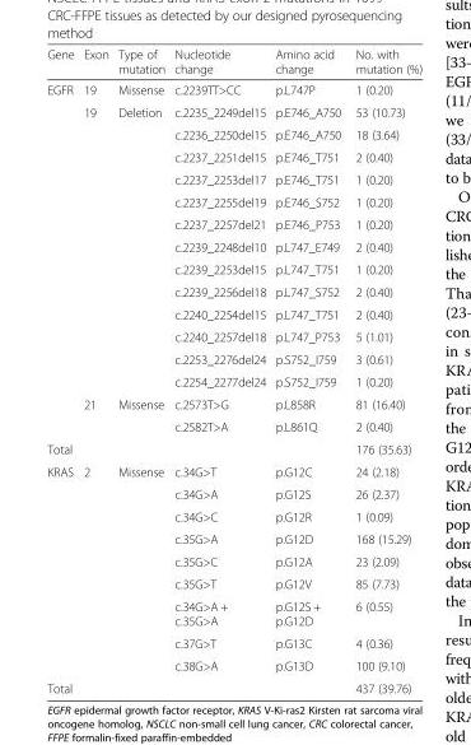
<table><thead><tr><td>Gene</td><td>Exon</td><td>Type of mutation</td><td>Nucleotide change</td><td>Amino acid change</td><td>No. with mutation (%)</td></tr></thead><tbody><tr><td rowspan="16">EGFR</td><td>19</td><td>Missense</td><td>c.2239TT&gt;CC</td><td>p.L747P</td><td>1 (0.20)</td></tr><tr><td>19</td><td>Deletion</td><td>c.2235_2249del15</td><td>p.E746_A750</td><td>53 (10.73)</td></tr><tr><td></td><td></td><td>c.2236_2250del15</td><td>p.E746_A750</td><td>18 (3.64)</td></tr><tr><td></td><td></td><td>c.2237_2251del15</td><td>p.E746_T751</td><td>2 (0.40)</td></tr><tr><td></td><td></td><td>c.2237_2253del17</td><td>p.E746_T751</td><td>1 (0.20)</td></tr><tr><td></td><td></td><td>c.2237_2255del19</td><td>p.E746_S752</td><td>1 (0.20)</td></tr><tr><td></td><td></td><td>c.2237_2257del21</td><td>p.E746_P753</td><td>1 (0.20)</td></tr><tr><td></td><td></td><td>c.2239_2248del10</td><td>p.L747_E749</td><td>2 (0.40)</td></tr><tr><td></td><td></td><td>c.2239_2253del15</td><td>p.L747_T751</td><td>1 (0.20)</td></tr><tr><td></td><td></td><td>c.2239_2256del18</td><td>p.L747_S752</td><td>2 (0.40)</td></tr><tr><td></td><td></td><td>c.2240_2254del15</td><td>p.L747_T751</td><td>2 (0.40)</td></tr><tr><td></td><td></td><td>c.2240_2257del18</td><td>p.L747_P753</td><td>5 (1.01)</td></tr><tr><td></td><td></td><td>c.2253_2276del24</td><td>p.S752_I759</td><td>3 (0.61)</td></tr><tr><td></td><td></td><td>c.2254_2277del24</td><td>p.S752_I759</td><td>1 (0.20)</td></tr><tr><td>21</td><td>Missense</td><td>c.2573T&gt;G</td><td>p.L858R</td><td>81 (16.40)</td></tr><tr><td></td><td></td><td>c.2582T&gt;A</td><td>p.L861Q</td><td>2 (0.40)</td></tr><tr><td>Total</td><td></td><td></td><td></td><td></td><td>176 (35.63)</td></tr><tr><td rowspan="9">KRAS</td><td>2</td><td>Missense</td><td>c.34G&gt;T</td><td>p.G12C</td><td>24 (2.18)</td></tr><tr><td></td><td></td><td>c.34G&gt;A</td><td>p.G12S</td><td>26 (2.37)</td></tr><tr><td></td><td></td><td>c.34G&gt;C</td><td>p.G12R</td><td>1 (0.09)</td></tr><tr><td></td><td></td><td>c.35G&gt;A</td><td>p.G12D</td><td>168 (15.29)</td></tr><tr><td></td><td></td><td>c.35G&gt;C</td><td>p.G12A</td><td>23 (2.09)</td></tr><tr><td></td><td></td><td>c.35G&gt;T</td><td>p.G12V</td><td>85 (7.73)</td></tr><tr><td></td><td></td><td>c.34G&gt;A + c.35G&gt;A</td><td>p.G12S + p.G12D</td><td>6 (0.55)</td></tr><tr><td></td><td></td><td>c.37G&gt;T</td><td>p.G13C</td><td>4 (0.36)</td></tr><tr><td></td><td></td><td>c.38G&gt;A</td><td>p.G13D</td><td>100 (9.10)</td></tr><tr><td>Total</td><td></td><td></td><td></td><td></td><td>437 (39.76)</td></tr></tbody></table>